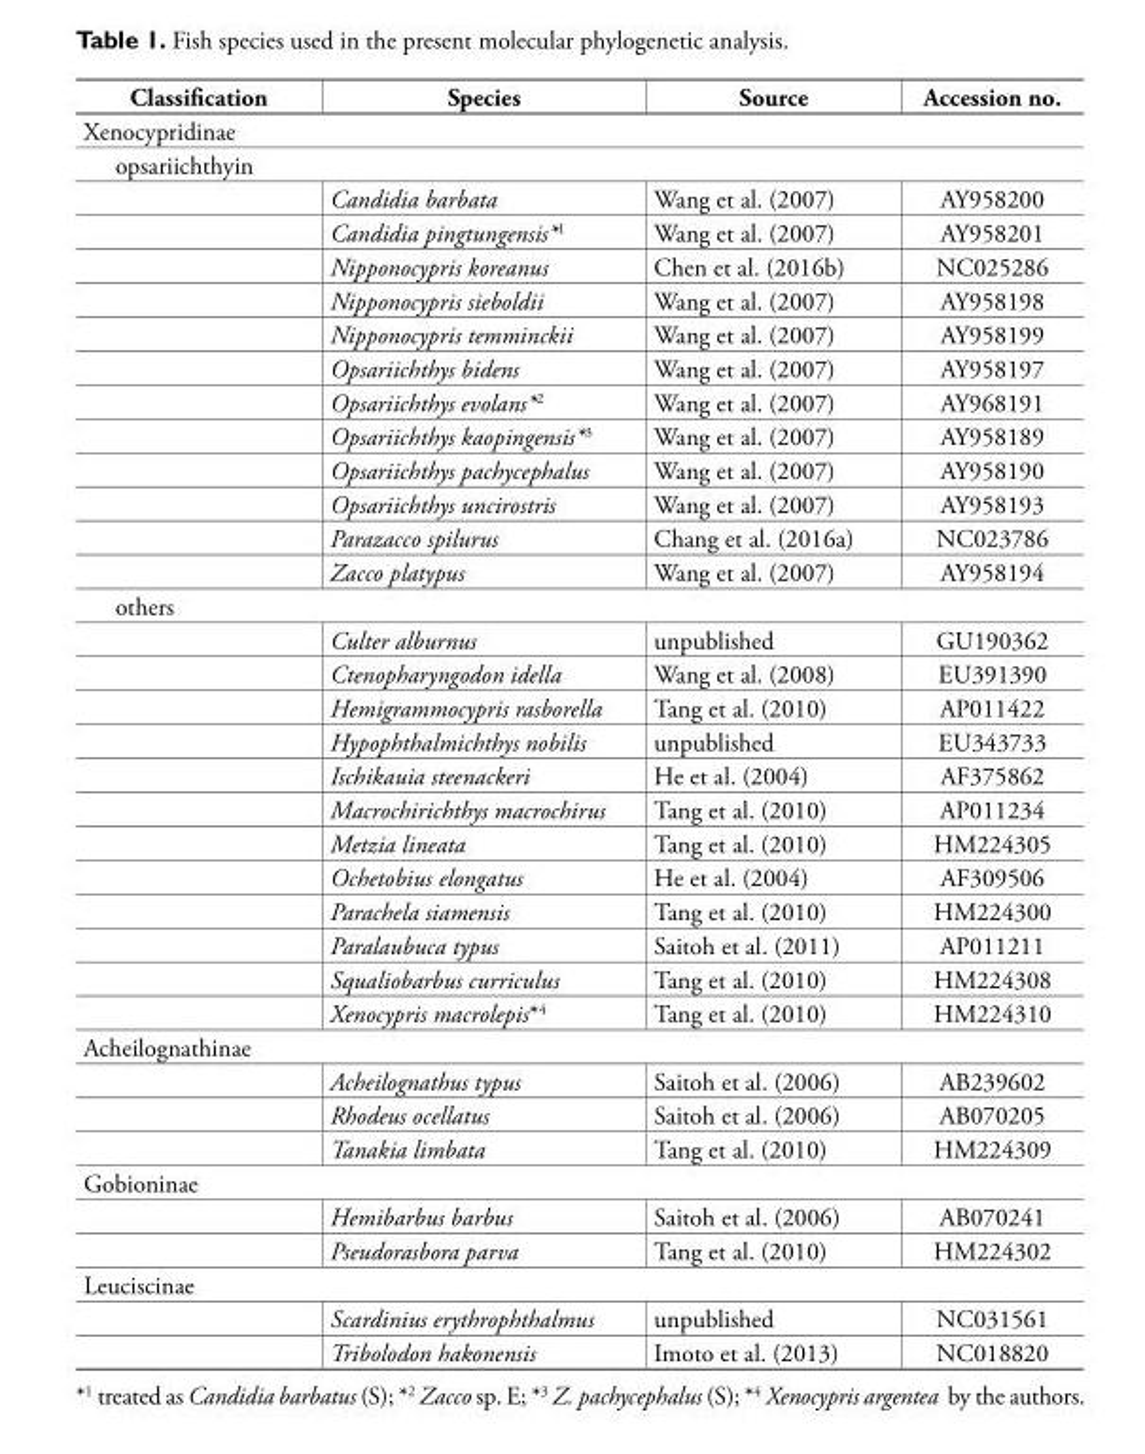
<table><tbody><tr><td>Classification</td><td>Species</td><td>Source</td><td>Accession no.</td></tr><tr><td colspan="4">Xenocypridinae</td></tr><tr><td colspan="4">opsariichthyin</td></tr><tr><td></td><td>Candidia barbata</td><td>Wang et al. (2007)</td><td>AY958200</td></tr><tr><td></td><td>Candidia pingtungensis*<sup>1</sup></td><td>Wang et al. (2007)</td><td>AY958201</td></tr><tr><td></td><td>Nipponocypris koreanus</td><td>Chen et al. (2016b)</td><td>NC025286</td></tr><tr><td></td><td>Nipponocypris sieboldii</td><td>Wang et al. (2007)</td><td>AY958198</td></tr><tr><td></td><td>Nipponocypris temminckii</td><td>Wang et al. (2007)</td><td>AY958199</td></tr><tr><td></td><td>Opsariichthys bidens</td><td>Wang et al. (2007)</td><td>AY958197</td></tr><tr><td></td><td>Opsariichthys evolans*<sup>2</sup></td><td>Wang et al. (2007)</td><td>AY968191</td></tr><tr><td></td><td>Opsariichthys kaopingensis*<sup>3</sup></td><td>Wang et al. (2007)</td><td>AY958189</td></tr><tr><td></td><td>Opsariichthys pachycephalus</td><td>Wang et al. (2007)</td><td>AY958190</td></tr><tr><td></td><td>Opsariichthys uncirostris</td><td>Wang et al. (2007)</td><td>AY958193</td></tr><tr><td></td><td>Parazacco spilurus</td><td>Chang et al. (2016a)</td><td>NC023786</td></tr><tr><td></td><td>Zacco platypus</td><td>Wang et al. (2007)</td><td>AY958194</td></tr><tr><td colspan="4">others</td></tr><tr><td></td><td>Culter alburnus</td><td>unpublished</td><td>GU190362</td></tr><tr><td></td><td>Ctenopharyngodon idella</td><td>Wang et al. (2008)</td><td>EU391390</td></tr><tr><td></td><td>Hemigrammocypris rasborella</td><td>Tang et al. (2010)</td><td>AP011422</td></tr><tr><td></td><td>Hypophthalmichthys nobilis</td><td>unpublished</td><td>EU343733</td></tr><tr><td></td><td>Ischikauia steenackeri</td><td>He et al. (2004)</td><td>AF375862</td></tr><tr><td></td><td>Macrochirichthys macrochirus</td><td>Tang et al. (2010)</td><td>AP011234</td></tr><tr><td></td><td>Metzia lineata</td><td>Tang et al. (2010)</td><td>HM224305</td></tr><tr><td></td><td>Ochetobius elongatus</td><td>He et al. (2004)</td><td>AF309506</td></tr><tr><td></td><td>Parachela siamensis</td><td>Tang et al. (2010)</td><td>HM224300</td></tr><tr><td></td><td>Paralaubuca typus</td><td>Saitoh et al. (2011)</td><td>AP011211</td></tr><tr><td></td><td>Squaliobarbus curriculus</td><td>Tang et al. (2010)</td><td>HM224308</td></tr><tr><td></td><td>Xenocypris macrolepis*<sup>4</sup></td><td>Tang et al. (2010)</td><td>HM224310</td></tr><tr><td colspan="4">Acheilognathinae</td></tr><tr><td></td><td>Acheilognathus typus</td><td>Saitoh et al. (2006)</td><td>AB239602</td></tr><tr><td></td><td>Rhodeus ocellatus</td><td>Saitoh et al. (2006)</td><td>AB070205</td></tr><tr><td></td><td>Tanakia limbata</td><td>Tang et al. (2010)</td><td>HM224309</td></tr><tr><td colspan="4">Gobioninae</td></tr><tr><td></td><td>Hemibarbus barbus</td><td>Saitoh et al. (2006)</td><td>AB070241</td></tr><tr><td></td><td>Pseudorasbora parva</td><td>Tang et al. (2010)</td><td>HM224302</td></tr><tr><td colspan="4">Leuciscinae</td></tr><tr><td></td><td>Scardinius erythrophthalmus</td><td>unpublished</td><td>NC031561</td></tr><tr><td></td><td>Tribolodon hakonensis</td><td>Imoto et al. (2013)</td><td>NC018820</td></tr></tbody></table>